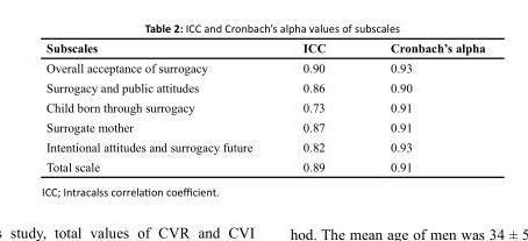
<table><thead><tr><td>Subscales</td><td>ICC</td><td>Cronbach’s alpha</td></tr></thead><tbody><tr><td>Overall acceptance of surrogacy</td><td>0.90</td><td>0.93</td></tr><tr><td>Surrogacy and public attitudes</td><td>0.86</td><td>0.90</td></tr><tr><td>Child born through surrogacy</td><td>0.73</td><td>0.91</td></tr><tr><td>Surrogate mother</td><td>0.87</td><td>0.91</td></tr><tr><td>Intentional attitudes and surrogacy future</td><td>0.82</td><td>0.93</td></tr><tr><td>Total scale</td><td>0.89</td><td>0.91</td></tr><tr><td>ICC; Intracalss correlation coefficient.</td><td></td><td></td></tr></tbody></table>